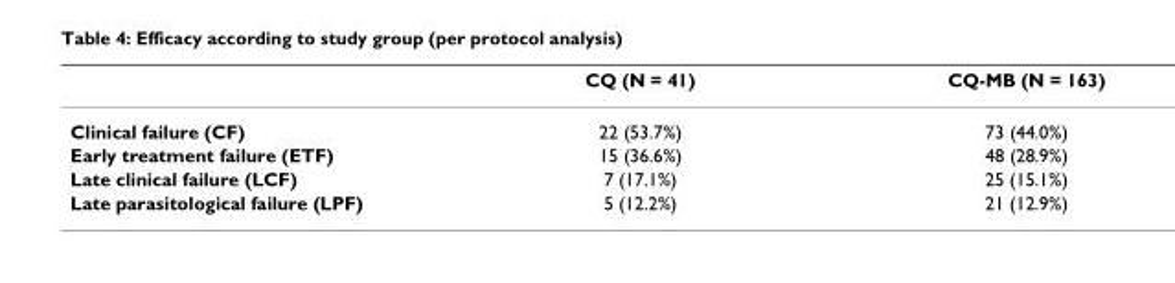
<table><thead><tr><td></td><td>CQ (N = 41)</td><td>CQ-MB (N = 163)</td></tr></thead><tbody><tr><td>Clinical failure (CF)</td><td>22 (53.7%)</td><td>73 (44.0%)</td></tr><tr><td>Early treatment failure (ETF)</td><td>15 (36.6%)</td><td>48 (28.9%)</td></tr><tr><td>Late clinical failure (LCF)</td><td>7 (17.1%)</td><td>25 (15.1%)</td></tr><tr><td>Late parasitological failure (LPF)</td><td>5 (12.2%)</td><td>21 (12.9%)</td></tr></tbody></table>